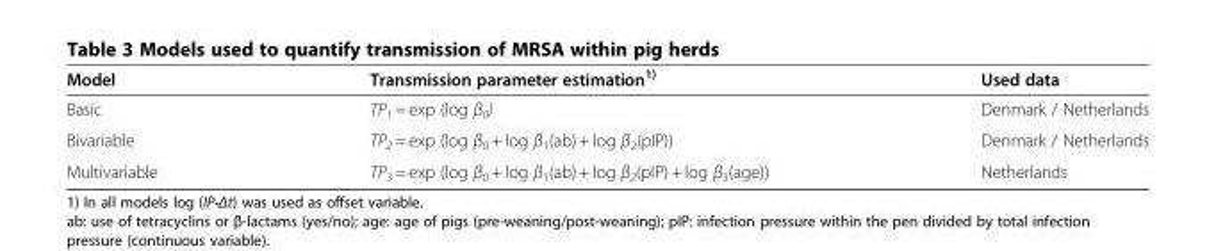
<table><thead><tr><td>Model</td><td>Transmission parameter estimation<sup>1)</sup></td><td>Used data</td></tr></thead><tbody><tr><td>Basic</td><td>TP<sub>1</sub> = exp (log β<sub>0</sub>)</td><td>Denmark / Netherlands</td></tr><tr><td>Bivariable</td><td>TP<sub>2</sub> = exp (log β<sub>0</sub> + log β<sub>1</sub>(ab) + log β<sub>2</sub>(pIP))</td><td>Denmark / Netherlands</td></tr><tr><td>Multivariable</td><td>TP<sub>3</sub> = exp (log β<sub>0</sub> + log β<sub>1</sub>(ab) + log β<sub>2</sub>(pIP) + log β<sub>3</sub>(age))</td><td>Netherlands</td></tr></tbody></table>